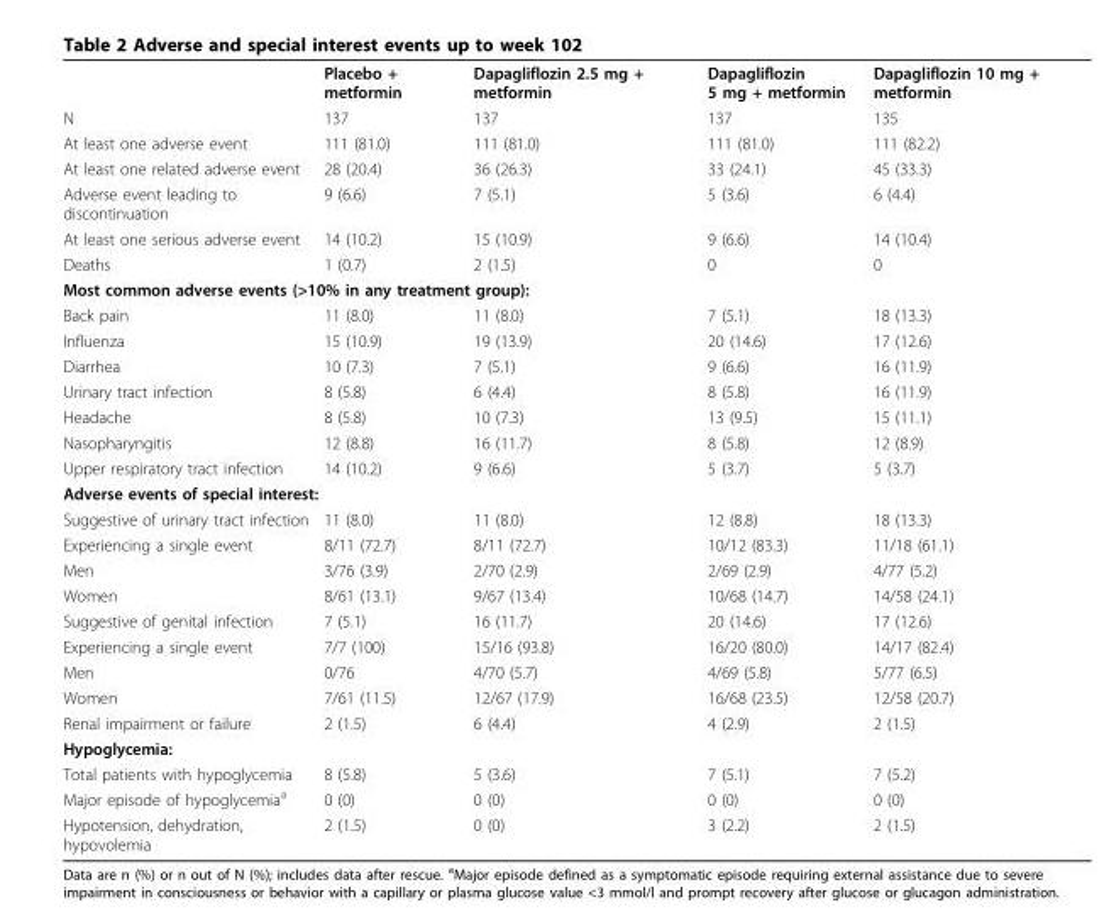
<table><thead><tr><td></td><td>Placebo + metformin</td><td>Dapagliflozin 2.5 mg + metformin</td><td>Dapagliflozin 5 mg + metformin</td><td>Dapagliflozin 10 mg + metformin</td></tr></thead><tbody><tr><td>N</td><td>137</td><td>137</td><td>137</td><td>135</td></tr><tr><td>At least one adverse event</td><td>111 (81.0)</td><td>111 (81.0)</td><td>111 (81.0)</td><td>111 (82.2)</td></tr><tr><td>At least one related adverse event</td><td>28 (20.4)</td><td>36 (26.3)</td><td>33 (24.1)</td><td>45 (33.3)</td></tr><tr><td>Adverse event leading to discontinuation</td><td>9 (6.6)</td><td>7 (5.1)</td><td>5 (3.6)</td><td>6 (4.4)</td></tr><tr><td>At least one serious adverse event</td><td>14 (10.2)</td><td>15 (10.9)</td><td>9 (6.6)</td><td>14 (10.4)</td></tr><tr><td>Deaths</td><td>1 (0.7)</td><td>2 (1.5)</td><td>0</td><td>0</td></tr><tr><td colspan="5">Most common adverse events (&gt;10% in any treatment group):</td></tr><tr><td>Back pain</td><td>11 (8.0)</td><td>11 (8.0)</td><td>7 (5.1)</td><td>18 (13.3)</td></tr><tr><td>Influenza</td><td>15 (10.9)</td><td>19 (13.9)</td><td>20 (14.6)</td><td>17 (12.6)</td></tr><tr><td>Diarrhea</td><td>10 (7.3)</td><td>7 (5.1)</td><td>9 (6.6)</td><td>16 (11.9)</td></tr><tr><td>Urinary tract infection</td><td>8 (5.8)</td><td>6 (4.4)</td><td>8 (5.8)</td><td>16 (11.9)</td></tr><tr><td>Headache</td><td>8 (5.8)</td><td>10 (7.3)</td><td>13 (9.5)</td><td>15 (11.1)</td></tr><tr><td>Nasopharyngitis</td><td>12 (8.8)</td><td>16 (11.7)</td><td>8 (5.8)</td><td>12 (8.9)</td></tr><tr><td>Upper respiratory tract infection</td><td>14 (10.2)</td><td>9 (6.6)</td><td>5 (3.7)</td><td>5 (3.7)</td></tr><tr><td colspan="5">Adverse events of special interest:</td></tr><tr><td>Suggestive of urinary tract infection</td><td>11 (8.0)</td><td>11 (8.0)</td><td>12 (8.8)</td><td>18 (13.3)</td></tr><tr><td>Experiencing a single event</td><td>8/11 (72.7)</td><td>8/11 (72.7)</td><td>10/12 (83.3)</td><td>11/18 (61.1)</td></tr><tr><td>Men</td><td>3/76 (3.9)</td><td>2/70 (2.9)</td><td>2/69 (2.9)</td><td>4/77 (5.2)</td></tr><tr><td>Women</td><td>8/61 (13.1)</td><td>9/67 (13.4)</td><td>10/68 (14.7)</td><td>14/58 (24.1)</td></tr><tr><td>Suggestive of genital infection</td><td>7 (5.1)</td><td>16 (11.7)</td><td>20 (14.6)</td><td>17 (12.6)</td></tr><tr><td>Experiencing a single event</td><td>7/7 (100)</td><td>15/16 (93.8)</td><td>16/20 (80.0)</td><td>14/17 (82.4)</td></tr><tr><td>Men</td><td>0/76</td><td>4/70 (5.7)</td><td>4/69 (5.8)</td><td>5/77 (6.5)</td></tr><tr><td>Women</td><td>7/61 (11.5)</td><td>12/67 (17.9)</td><td>16/68 (23.5)</td><td>12/58 (20.7)</td></tr><tr><td>Renal impairment or failure</td><td>2 (1.5)</td><td>6 (4.4)</td><td>4 (2.9)</td><td>2 (1.5)</td></tr><tr><td colspan="5">Hypoglycemia:</td></tr><tr><td>Total patients with hypoglycemia</td><td>8 (5.8)</td><td>5 (3.6)</td><td>7 (5.1)</td><td>7 (5.2)</td></tr><tr><td>Major episode of hypoglycemia<sup>a</sup></td><td>0 (0)</td><td>0 (0)</td><td>0 (0)</td><td>0 (0)</td></tr><tr><td>Hypotension, dehydration, hypovolemia</td><td>2 (1.5)</td><td>0 (0)</td><td>3 (2.2)</td><td>2 (1.5)</td></tr></tbody></table>